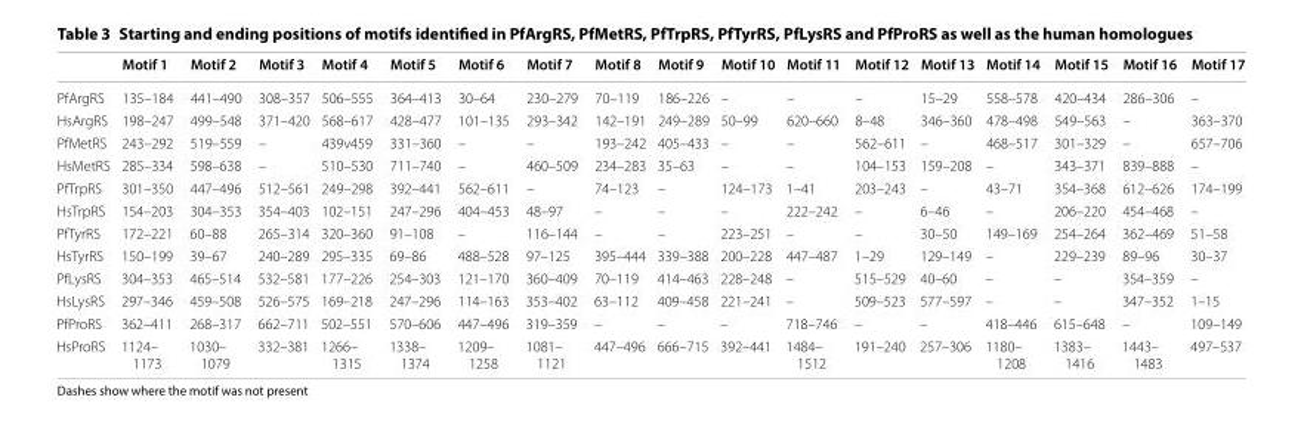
<table><thead><tr><td></td><td>Motif 1</td><td>Motif 2</td><td>Motif 3</td><td>Motif 4</td><td>Motif 5</td><td>Motif 6</td><td>Motif 7</td><td>Motif 8</td><td>Motif 9</td><td>Motif 10</td><td>Motif 11</td><td>Motif 12</td><td>Motif 13</td><td>Motif 14</td><td>Motif 15</td><td>Motif 16</td><td>Motif 17</td></tr></thead><tbody><tr><td>PfArgRS</td><td>135–184</td><td>441–490</td><td>308–357</td><td>506–555</td><td>364–413</td><td>30–64</td><td>230–279</td><td>70–119</td><td>186–226</td><td>–</td><td>–</td><td>–</td><td>15–29</td><td>558–578</td><td>420–434</td><td>286–306</td><td>–</td></tr><tr><td>HsArgRS</td><td>198–247</td><td>499–548</td><td>371–420</td><td>568–617</td><td>428–477</td><td>101–135</td><td>293–342</td><td>142–191</td><td>249–289</td><td>50–99</td><td>620–660</td><td>8–48</td><td>346–360</td><td>478–498</td><td>549–563</td><td>–</td><td>363–370</td></tr><tr><td>PfMetRS</td><td>243–292</td><td>519–559</td><td>–</td><td>439v459</td><td>331–360</td><td>–</td><td>–</td><td>193–242</td><td>405–433</td><td>–</td><td>–</td><td>562–611</td><td>–</td><td>468–517</td><td>301–329</td><td>–</td><td>657–706</td></tr><tr><td>HsMetRS</td><td>285–334</td><td>598–638</td><td>–</td><td>510–530</td><td>711–740</td><td>–</td><td>460–509</td><td>234–283</td><td>35–63</td><td>–</td><td>–</td><td>104–153</td><td>159–208</td><td>–</td><td>343–371</td><td>839–888</td><td>–</td></tr><tr><td>PfTrpRS</td><td>301–350</td><td>447–496</td><td>512–561</td><td>249–298</td><td>392–441</td><td>562–611</td><td>–</td><td>74–123</td><td>–</td><td>124–173</td><td>1–41</td><td>203–243</td><td>–</td><td>43–71</td><td>354–368</td><td>612–626</td><td>174–199</td></tr><tr><td>HsTrpRS</td><td>154–203</td><td>304–353</td><td>354–403</td><td>102–151</td><td>247–296</td><td>404–453</td><td>48–97</td><td>–</td><td>–</td><td>–</td><td>222–242</td><td>–</td><td>6–46</td><td>–</td><td>206–220</td><td>454–468</td><td>–</td></tr><tr><td>PfTyrRS</td><td>172–221</td><td>60–88</td><td>265–314</td><td>320–360</td><td>91–108</td><td>–</td><td>116–144</td><td>–</td><td>–</td><td>223–251</td><td>–</td><td>–</td><td>30–50</td><td>149–169</td><td>254–264</td><td>362–469</td><td>51–58</td></tr><tr><td>HsTyrRS</td><td>150–199</td><td>39–67</td><td>240–289</td><td>295–335</td><td>69–86</td><td>488–528</td><td>97–125</td><td>395–444</td><td>339–388</td><td>200–228</td><td>447–487</td><td>1–29</td><td>129–149</td><td>–</td><td>229–239</td><td>89–96</td><td>30–37</td></tr><tr><td>PfLysRS</td><td>304–353</td><td>465–514</td><td>532–581</td><td>177–226</td><td>254–303</td><td>121–170</td><td>360–409</td><td>70–119</td><td>414–463</td><td>228–248</td><td>–</td><td>515–529</td><td>40–60</td><td>–</td><td>–</td><td>354–359</td><td>–</td></tr><tr><td>HsLysRS</td><td>297–346</td><td>459–508</td><td>526–575</td><td>169–218</td><td>247–296</td><td>114–163</td><td>353–402</td><td>63–112</td><td>409–458</td><td>221–241</td><td>–</td><td>509–523</td><td>577–597</td><td>–</td><td>–</td><td>347–352</td><td>1–15</td></tr><tr><td>PfProRS</td><td>362–411</td><td>268–317</td><td>662–711</td><td>502–551</td><td>570–606</td><td>447–496</td><td>319–359</td><td>–</td><td>–</td><td>–</td><td>718–746</td><td>–</td><td>–</td><td>418–446</td><td>615–648</td><td>–</td><td>109–149</td></tr><tr><td>HsProRS</td><td>1124– 1173</td><td>1030– 1079</td><td>332–381</td><td>1266– 1315</td><td>1338– 1374</td><td>1209– 1258</td><td>1081– 1121</td><td>447–496</td><td>666–715</td><td>392–441</td><td>1484– 1512</td><td>191–240</td><td>257–306</td><td>1180– 1208</td><td>1383– 1416</td><td>1443– 1483</td><td>497–537</td></tr></tbody></table>